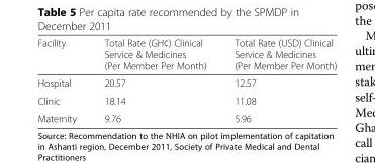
<table><thead><tr><td>Facility</td><td>Total Rate (GH¢) Clinical Service &amp; Medicines (Per Member Per Month)</td><td>Total Rate (USD) Clinical Service &amp; Medicines (Per Member Per Month)</td></tr></thead><tbody><tr><td>Hospital</td><td>20.57</td><td>12.57</td></tr><tr><td>Clinic</td><td>18.14</td><td>11.08</td></tr><tr><td>Maternity</td><td>9.76</td><td>5.96</td></tr></tbody></table>